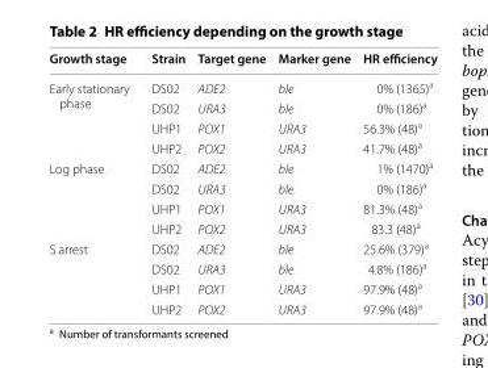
<table><thead><tr><td>Growth stage</td><td>Strain</td><td>Target gene</td><td>Marker gene</td><td>HR efficiency</td></tr></thead><tbody><tr><td rowspan="4">Early stationary phase</td><td>DS02</td><td>ADE2</td><td>ble</td><td>0% (1365)<sup>a</sup></td></tr><tr><td>DS02</td><td>URA3</td><td>ble</td><td>0% (186)<sup>a</sup></td></tr><tr><td>UHP1</td><td>POX1</td><td>URA3</td><td>56.3% (48)<sup>a</sup></td></tr><tr><td>UHP2</td><td>POX2</td><td>URA3</td><td>41.7% (48)<sup>a</sup></td></tr><tr><td rowspan="4">Log phase</td><td>DS02</td><td>ADE2</td><td>ble</td><td>1% (1470)<sup>a</sup></td></tr><tr><td>DS02</td><td>URA3</td><td>ble</td><td>0% (186)<sup>a</sup></td></tr><tr><td>UHP1</td><td>POX1</td><td>URA3</td><td>81.3% (48)<sup>a</sup></td></tr><tr><td>UHP2</td><td>POX2</td><td>URA3</td><td>83.3 (48)<sup>a</sup></td></tr><tr><td rowspan="4">S arrest</td><td>DS02</td><td>ADE2</td><td>ble</td><td>25.6% (379)<sup>a</sup></td></tr><tr><td>DS02</td><td>URA3</td><td>ble</td><td>4.8% (186)<sup>a</sup></td></tr><tr><td>UHP1</td><td>POX1</td><td>URA3</td><td>97.9% (48)<sup>a</sup></td></tr><tr><td>UHP2</td><td>POX2</td><td>URA3</td><td>97.9% (48)<sup>a</sup></td></tr></tbody></table>